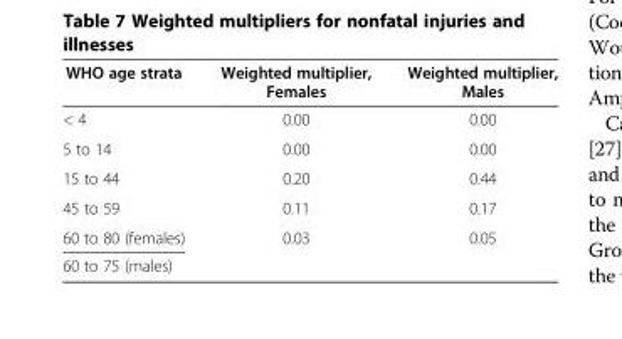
<table><thead><tr><td>WHO age strata</td><td>Weighted multiplier, Females</td><td>Weighted multiplier, Males</td></tr></thead><tbody><tr><td>&lt; 4</td><td>0.00</td><td>0.00</td></tr><tr><td>5 to 14</td><td>0.00</td><td>0.00</td></tr><tr><td>15 to 44</td><td>0.20</td><td>0.44</td></tr><tr><td>45 to 59</td><td>0.11</td><td>0.17</td></tr><tr><td>60 to 80 (females)</td><td>0.03</td><td>0.05</td></tr><tr><td>60 to 75 (males)</td><td></td><td></td></tr></tbody></table>